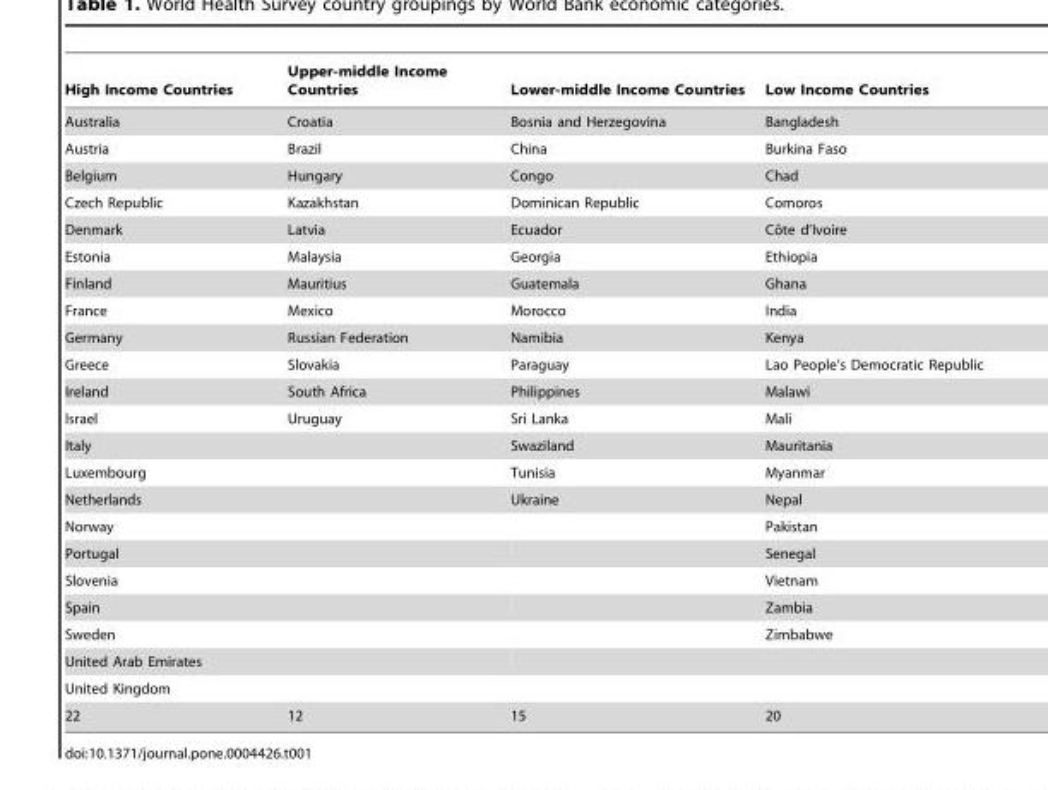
<table><thead><tr><td>High Income Countries</td><td>Upper-middle Income Countries</td><td>Lower-middle Income Countries</td><td>Low Income Countries</td></tr></thead><tbody><tr><td>Australia</td><td>Croatia</td><td>Bosnia and Herzegovina</td><td>Bangladesh</td></tr><tr><td>Austria</td><td>Brazil</td><td>China</td><td>Burkina Faso</td></tr><tr><td>Belgium</td><td>Hungary</td><td>Congo</td><td>Chad</td></tr><tr><td>Czech Republic</td><td>Kazakhstan</td><td>Dominican Republic</td><td>Comoros</td></tr><tr><td>Denmark</td><td>Latvia</td><td>Ecuador</td><td>Coˆte d’Ivoire</td></tr><tr><td>Estonia</td><td>Malaysia</td><td>Georgia</td><td>Ethiopia</td></tr><tr><td>Finland</td><td>Mauritius</td><td>Guatemala</td><td>Ghana</td></tr><tr><td>France</td><td>Mexico</td><td>Morocco</td><td>India</td></tr><tr><td>Germany</td><td>Russian Federation</td><td>Namibia</td><td>Kenya</td></tr><tr><td>Greece</td><td>Slovakia</td><td>Paraguay</td><td>Lao People’s Democratic Republic</td></tr><tr><td>Ireland</td><td>South Africa</td><td>Philippines</td><td>Malawi</td></tr><tr><td>Israel</td><td>Uruguay</td><td>Sri Lanka</td><td>Mali</td></tr><tr><td>Italy</td><td></td><td>Swaziland</td><td>Mauritania</td></tr><tr><td>Luxembourg</td><td></td><td>Tunisia</td><td>Myanmar</td></tr><tr><td>Netherlands</td><td></td><td>Ukraine</td><td>Nepal</td></tr><tr><td>Norway</td><td></td><td></td><td>Pakistan</td></tr><tr><td>Portugal</td><td></td><td></td><td>Senegal</td></tr><tr><td>Slovenia</td><td></td><td></td><td>Vietnam</td></tr><tr><td>Spain</td><td></td><td></td><td>Zambia</td></tr><tr><td>Sweden</td><td></td><td></td><td>Zimbabwe</td></tr><tr><td colspan="4">United Arab Emirates</td></tr><tr><td colspan="4">United Kingdom</td></tr><tr><td>22</td><td>12</td><td>15</td><td>20</td></tr></tbody></table>